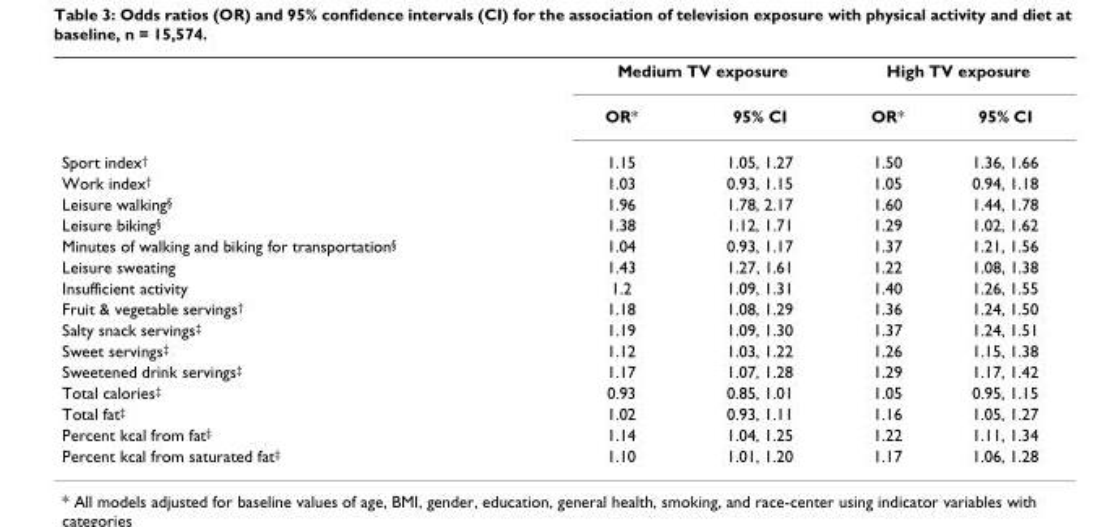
<table><thead><tr><td rowspan="2"></td><td colspan="2">Medium TV exposure</td><td colspan="2">High TV exposure</td></tr><tr><td>OR*</td><td>95% CI</td><td>OR*</td><td>95% CI</td></tr></thead><tbody><tr><td>Sport index<sup>†</sup></td><td>1.15</td><td>1.05, 1.27</td><td>1.50</td><td>1.36, 1.66</td></tr><tr><td>Work index<sup>†</sup></td><td>1.03</td><td>0.93, 1.15</td><td>1.05</td><td>0.94, 1.18</td></tr><tr><td>Leisure walking<sup>§</sup></td><td>1.96</td><td>1.78, 2.17</td><td>1.60</td><td>1.44, 1.78</td></tr><tr><td>Leisure biking<sup>§</sup></td><td>1.38</td><td>1.12, 1.71</td><td>1.29</td><td>1.02, 1.62</td></tr><tr><td>Minutes of walking and biking for transportation<sup>§</sup></td><td>1.04</td><td>0.93, 1.17</td><td>1.37</td><td>1.21, 1.56</td></tr><tr><td>Leisure sweating</td><td>1.43</td><td>1.27, 1.61</td><td>1.22</td><td>1.08, 1.38</td></tr><tr><td>Insufficient activity</td><td>1.2</td><td>1.09, 1.31</td><td>1.40</td><td>1.26, 1.55</td></tr><tr><td>Fruit &amp; vegetable servings<sup>†</sup></td><td>1.18</td><td>1.08, 1.29</td><td>1.36</td><td>1.24, 1.50</td></tr><tr><td>Salty snack servings<sup>‡</sup></td><td>1.19</td><td>1.09, 1.30</td><td>1.37</td><td>1.24, 1.51</td></tr><tr><td>Sweet servings<sup>‡</sup></td><td>1.12</td><td>1.03, 1.22</td><td>1.26</td><td>1.15, 1.38</td></tr><tr><td>Sweetened drink servings<sup>‡</sup></td><td>1.17</td><td>1.07, 1.28</td><td>1.29</td><td>1.17, 1.42</td></tr><tr><td>Total calories<sup>‡</sup></td><td>0.93</td><td>0.85, 1.01</td><td>1.05</td><td>0.95, 1.15</td></tr><tr><td>Total fat<sup>‡</sup></td><td>1.02</td><td>0.93, 1.11</td><td>1.16</td><td>1.05, 1.27</td></tr><tr><td>Percent kcal from fat<sup>‡</sup></td><td>1.14</td><td>1.04, 1.25</td><td>1.22</td><td>1.11, 1.34</td></tr><tr><td>Percent kcal from saturated fat<sup>‡</sup></td><td>1.10</td><td>1.01, 1.20</td><td>1.17</td><td>1.06, 1.28</td></tr></tbody></table>